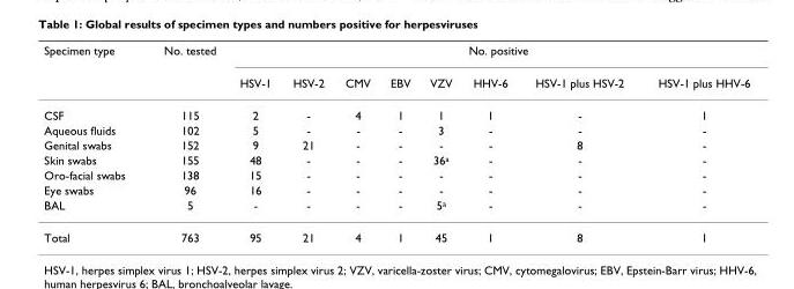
<table><thead><tr><td rowspan="2">Specimen type</td><td rowspan="2">No. tested</td><td colspan="8">No. positive</td></tr><tr><td>HSV-1</td><td>HSV-2</td><td>CMV</td><td>EBV</td><td>VZV</td><td>HHV-6</td><td>HSV-1 plus HSV-2</td><td>HSV-1 plus HHV-6</td></tr></thead><tbody><tr><td>CSF</td><td>115</td><td>2</td><td>-</td><td>4</td><td>1</td><td>1</td><td>1</td><td>-</td><td>1</td></tr><tr><td>Aqueous fluids</td><td>102</td><td>5</td><td>-</td><td>-</td><td>-</td><td>3</td><td>-</td><td>-</td><td>-</td></tr><tr><td>Genital swabs</td><td>152</td><td>9</td><td>21</td><td>-</td><td>-</td><td>-</td><td>-</td><td>8</td><td>-</td></tr><tr><td>Skin swabs</td><td>155</td><td>48</td><td>-</td><td>-</td><td>-</td><td>36<sup>a</sup></td><td>-</td><td>-</td><td>-</td></tr><tr><td>Oro-facial swabs</td><td>138</td><td>15</td><td>-</td><td>-</td><td>-</td><td>-</td><td>-</td><td>-</td><td>-</td></tr><tr><td>Eye swabs</td><td>96</td><td>16</td><td>-</td><td>-</td><td>-</td><td>-</td><td>-</td><td>-</td><td>-</td></tr><tr><td>BAL</td><td>5</td><td>-</td><td>-</td><td>-</td><td>-</td><td>5<sup>a</sup></td><td>-</td><td>-</td><td>-</td></tr><tr><td>Total</td><td>763</td><td>95</td><td>21</td><td>4</td><td>1</td><td>45</td><td>1</td><td>8</td><td>1</td></tr></tbody></table>